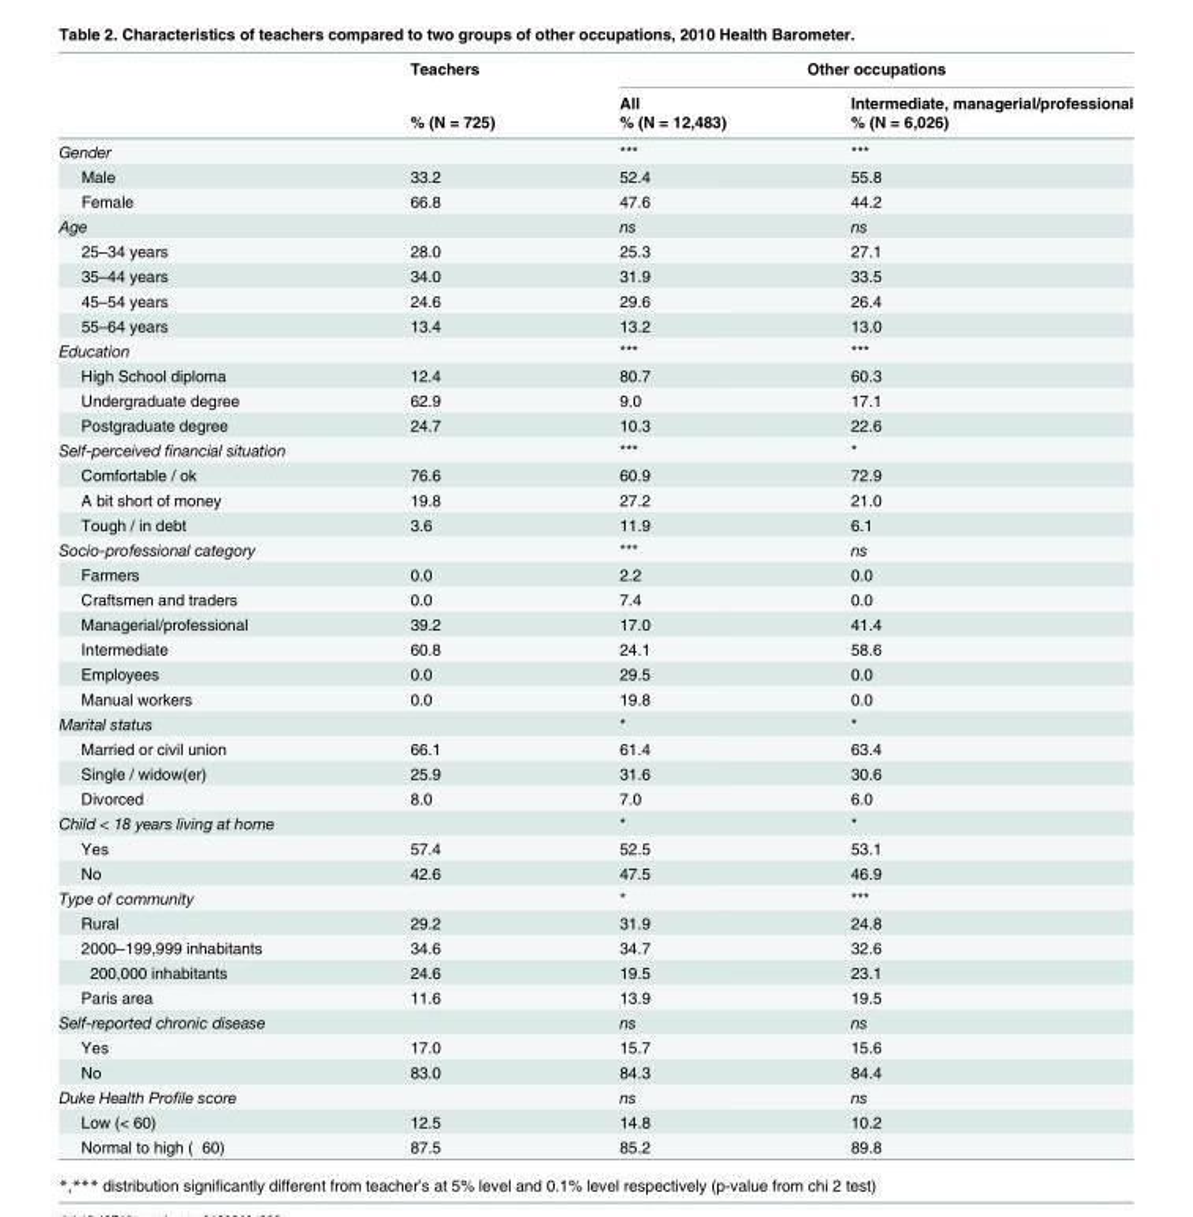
<table><thead><tr><td rowspan="3"></td><td rowspan="3">Teachers % (N = 725)</td><td colspan="2">Other occupations</td></tr><tr><td rowspan="2">All % (N = 12,483)</td><td rowspan="2">Intermediate, managerial/professional % (N = 6,026)</td></tr><tr></tr></thead><tbody><tr><td>Gender</td><td></td><td>***</td><td>***</td></tr><tr><td>Male</td><td>33.2</td><td>52.4</td><td>55.8</td></tr><tr><td>Female</td><td>66.8</td><td>47.6</td><td>44.2</td></tr><tr><td>Age</td><td></td><td>ns</td><td>ns</td></tr><tr><td>25–34 years</td><td>28.0</td><td>25.3</td><td>27.1</td></tr><tr><td>35–44 years</td><td>34.0</td><td>31.9</td><td>33.5</td></tr><tr><td>45–54 years</td><td>24.6</td><td>29.6</td><td>26.4</td></tr><tr><td>55–64 years</td><td>13.4</td><td>13.2</td><td>13.0</td></tr><tr><td>Education</td><td></td><td>***</td><td>***</td></tr><tr><td>High School diploma</td><td>12.4</td><td>80.7</td><td>60.3</td></tr><tr><td>Undergraduate degree</td><td>62.9</td><td>9.0</td><td>17.1</td></tr><tr><td>Postgraduate degree</td><td>24.7</td><td>10.3</td><td>22.6</td></tr><tr><td>Self-perceived financial situation</td><td></td><td>***</td><td>*</td></tr><tr><td>Comfortable / ok</td><td>76.6</td><td>60.9</td><td>72.9</td></tr><tr><td>A bit short of money</td><td>19.8</td><td>27.2</td><td>21.0</td></tr><tr><td>Tough / in debt</td><td>3.6</td><td>11.9</td><td>6.1</td></tr><tr><td>Socio-professional category</td><td></td><td>***</td><td>ns</td></tr><tr><td>Farmers</td><td>0.0</td><td>2.2</td><td>0.0</td></tr><tr><td>Craftsmen and traders</td><td>0.0</td><td>7.4</td><td>0.0</td></tr><tr><td>Managerial/professional</td><td>39.2</td><td>17.0</td><td>41.4</td></tr><tr><td>Intermediate</td><td>60.8</td><td>24.1</td><td>58.6</td></tr><tr><td>Employees</td><td>0.0</td><td>29.5</td><td>0.0</td></tr><tr><td>Manual workers</td><td>0.0</td><td>19.8</td><td>0.0</td></tr><tr><td>Marital status</td><td></td><td>*</td><td>*</td></tr><tr><td>Married or civil union</td><td>66.1</td><td>61.4</td><td>63.4</td></tr><tr><td>Single / widow(er)</td><td>25.9</td><td>31.6</td><td>30.6</td></tr><tr><td>Divorced</td><td>8.0</td><td>7.0</td><td>6.0</td></tr><tr><td>Child &lt; 18 years living at home</td><td></td><td>*</td><td>*</td></tr><tr><td>Yes</td><td>57.4</td><td>52.5</td><td>53.1</td></tr><tr><td>No</td><td>42.6</td><td>47.5</td><td>46.9</td></tr><tr><td>Type of community</td><td></td><td>*</td><td>***</td></tr><tr><td>Rural</td><td>29.2</td><td>31.9</td><td>24.8</td></tr><tr><td>2000–199,999 inhabitants</td><td>34.6</td><td>34.7</td><td>32.6</td></tr><tr><td>≥ 200,000 inhabitants</td><td>24.6</td><td>19.5</td><td>23.1</td></tr><tr><td>Paris area</td><td>11.6</td><td>13.9</td><td>19.5</td></tr><tr><td>Self-reported chronic disease</td><td></td><td>ns</td><td>ns</td></tr><tr><td>Yes</td><td>17.0</td><td>15.7</td><td>15.6</td></tr><tr><td>No</td><td>83.0</td><td>84.3</td><td>84.4</td></tr><tr><td>Duke Health Profile score</td><td></td><td>ns</td><td>ns</td></tr><tr><td>Low (&lt; 60)</td><td>12.5</td><td>14.8</td><td>10.2</td></tr><tr><td>Normal to high (≥ 60)</td><td>87.5</td><td>85.2</td><td>89.8</td></tr></tbody></table>